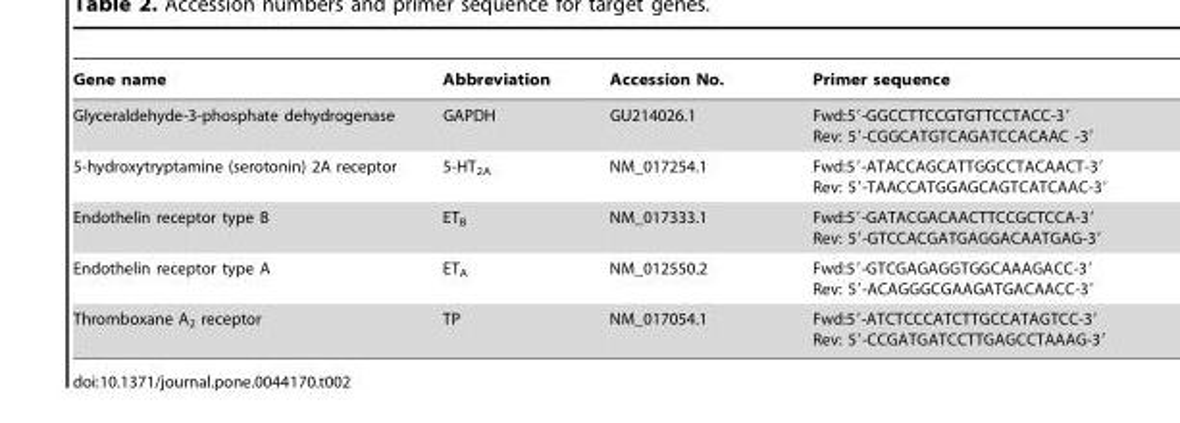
<table><thead><tr><td>Gene name</td><td>Abbreviation</td><td>Accession No.</td><td>Primer sequence</td></tr></thead><tbody><tr><td>Glyceraldehyde-3-phosphate dehydrogenase</td><td>GAPDH</td><td>GU214026.1</td><td>Fwd:5′-GGCCTTCCGTGTTCCTACC-3′ Rev: 5′-CGGCATGTCAGATCCACAAC -3′</td></tr><tr><td>5-hydroxytryptamine (serotonin) 2A receptor</td><td>5-HT<sub>2A</sub></td><td>NM_017254.1</td><td>Fwd:5′-ATACCAGCATTGGCCTACAACT-3′ Rev: 5′-TAACCATGGAGCAGTCATCAAC-3′</td></tr><tr><td>Endothelin receptor type B</td><td>ET<sub>B</sub></td><td>NM_017333.1</td><td>Fwd:5′-GATACGACAACTTCCGCTCCA-3′ Rev: 5′-GTCCACGATGAGGACAATGAG-3′</td></tr><tr><td>Endothelin receptor type A</td><td>ET<sub>A</sub></td><td>NM_012550.2</td><td>Fwd:5′-GTCGAGAGGTGGCAAAGACC-3′ Rev: 5′-ACAGGGCGAAGATGACAACC-3′</td></tr><tr><td>Thromboxane A<sub>2</sub> receptor</td><td>TP</td><td>NM_017054.1</td><td>Fwd:5′-ATCTCCCATCTTGCCATAGTCC-3′ Rev: 5′-CCGATGATCCTTGAGCCTAAAG-3′</td></tr></tbody></table>